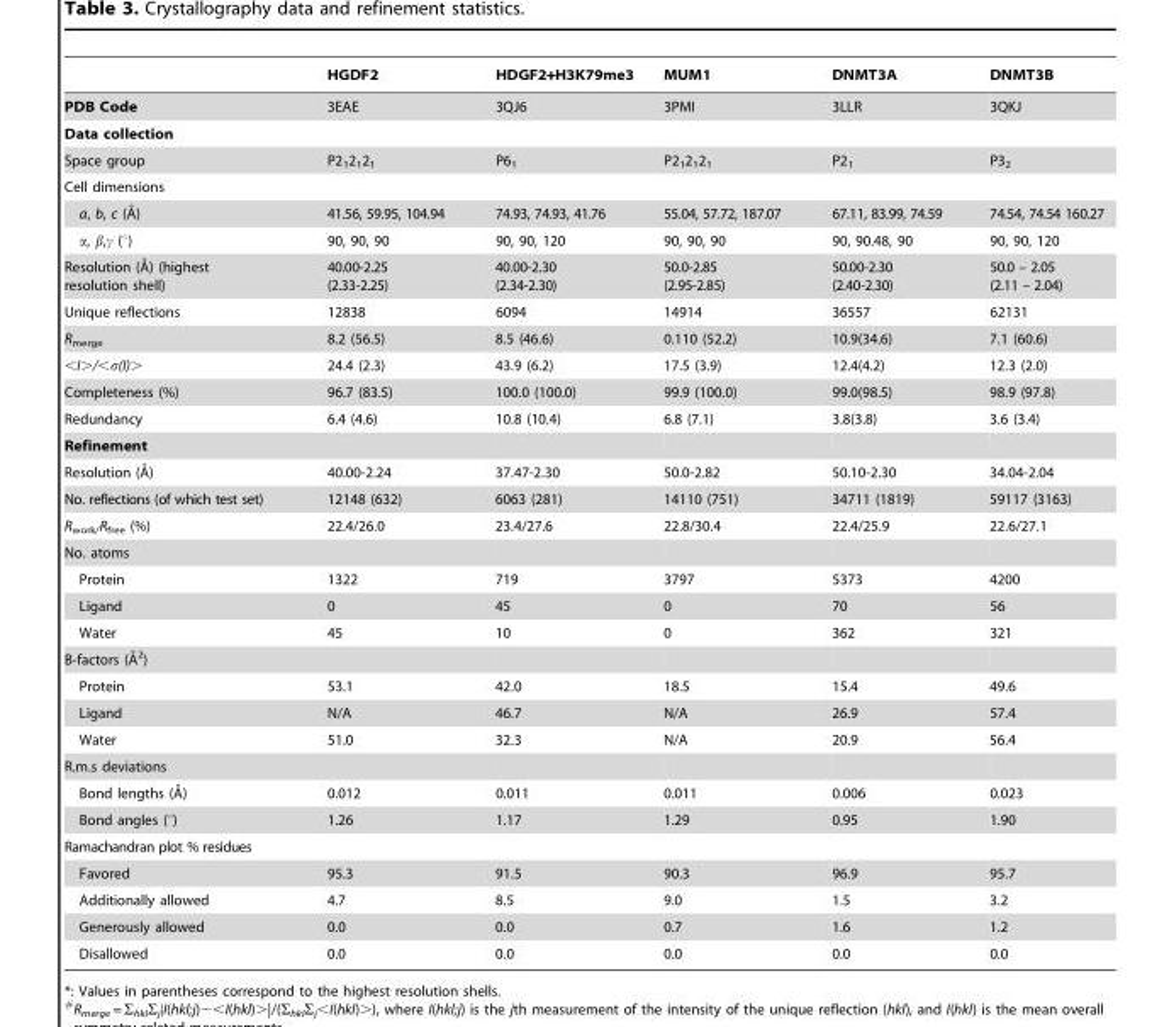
<table><thead><tr><td></td><td>HGDF2</td><td>HDGF2+H3K79me3</td><td>MUM1</td><td>DNMT3A</td><td>DNMT3B</td></tr></thead><tbody><tr><td>PDB Code</td><td>3EAE</td><td>3QJ6</td><td>3PMI</td><td>3LLR</td><td>3QKJ</td></tr><tr><td colspan="6">Data collection</td></tr><tr><td>Space group</td><td>P2<sub>1</sub>2<sub>1</sub>2<sub>1</sub></td><td>P6<sub>1</sub></td><td>P2<sub>1</sub>2<sub>1</sub>2<sub>1</sub></td><td>P2<sub>1</sub></td><td>P3<sub>2</sub></td></tr><tr><td colspan="6">Cell dimensions</td></tr><tr><td>a, b, c (A˚)</td><td>41.56, 59.95, 104.94</td><td>74.93, 74.93, 41.76</td><td>55.04, 57.72, 187.07</td><td>67.11, 83.99, 74.59</td><td>74.54, 74.54 160.27</td></tr><tr><td>α, β,γ (°)</td><td>90, 90, 90</td><td>90, 90, 120</td><td>90, 90, 90</td><td>90, 90.48, 90</td><td>90, 90, 120</td></tr><tr><td>Resolution (A˚) (highest resolution shell)</td><td>40.00-2.25 (2.33-2.25)</td><td>40.00-2.30 (2.34-2.30)</td><td>50.0-2.85 (2.95-2.85)</td><td>50.00-2.30 (2.40-2.30)</td><td>50.0 – 2.05 (2.11 – 2.04)</td></tr><tr><td>Unique reflections</td><td>12838</td><td>6094</td><td>14914</td><td>36557</td><td>62131</td></tr><tr><td>R<sub>merge</sub></td><td>8.2 (56.5)</td><td>8.5 (46.6)</td><td>0.110 (52.2)</td><td>10.9(34.6)</td><td>7.1 (60.6)</td></tr><tr><td>&lt;I&gt;/&lt;σ(I)&gt;</td><td>24.4 (2.3)</td><td>43.9 (6.2)</td><td>17.5 (3.9)</td><td>12.4(4.2)</td><td>12.3 (2.0)</td></tr><tr><td>Completeness (%)</td><td>96.7 (83.5)</td><td>100.0 (100.0)</td><td>99.9 (100.0)</td><td>99.0(98.5)</td><td>98.9 (97.8)</td></tr><tr><td>Redundancy</td><td>6.4 (4.6)</td><td>10.8 (10.4)</td><td>6.8 (7.1)</td><td>3.8(3.8)</td><td>3.6 (3.4)</td></tr><tr><td colspan="6">Refinement</td></tr><tr><td>Resolution (A˚)</td><td>40.00-2.24</td><td>37.47-2.30</td><td>50.0-2.82</td><td>50.10-2.30</td><td>34.04-2.04</td></tr><tr><td>No. reflections (of which test set)</td><td>12148 (632)</td><td>6063 (281)</td><td>14110 (751)</td><td>34711 (1819)</td><td>59117 (3163)</td></tr><tr><td>R<sub>work/</sub>R<sub>free</sub> (%)</td><td>22.4/26.0</td><td>23.4/27.6</td><td>22.8/30.4</td><td>22.4/25.9</td><td>22.6/27.1</td></tr><tr><td colspan="6">No. atoms</td></tr><tr><td>Protein</td><td>1322</td><td>719</td><td>3797</td><td>5373</td><td>4200</td></tr><tr><td>Ligand</td><td>0</td><td>45</td><td>0</td><td>70</td><td>56</td></tr><tr><td>Water</td><td>45</td><td>10</td><td>0</td><td>362</td><td>321</td></tr><tr><td colspan="6">B-factors (A˚ 2)</td></tr><tr><td>Protein</td><td>53.1</td><td>42.0</td><td>18.5</td><td>15.4</td><td>49.6</td></tr><tr><td>Ligand</td><td>N/A</td><td>46.7</td><td>N/A</td><td>26.9</td><td>57.4</td></tr><tr><td>Water</td><td>51.0</td><td>32.3</td><td>N/A</td><td>20.9</td><td>56.4</td></tr><tr><td colspan="6">R.m.s deviations</td></tr><tr><td>Bond lengths (A˚)</td><td>0.012</td><td>0.011</td><td>0.011</td><td>0.006</td><td>0.023</td></tr><tr><td>Bond angles (°)</td><td>1.26</td><td>1.17</td><td>1.29</td><td>0.95</td><td>1.90</td></tr><tr><td colspan="6">Ramachandran plot % residues</td></tr><tr><td>Favored</td><td>95.3</td><td>91.5</td><td>90.3</td><td>96.9</td><td>95.7</td></tr><tr><td>Additionally allowed</td><td>4.7</td><td>8.5</td><td>9.0</td><td>1.5</td><td>3.2</td></tr><tr><td>Generously allowed</td><td>0.0</td><td>0.0</td><td>0.7</td><td>1.6</td><td>1.2</td></tr><tr><td>Disallowed</td><td>0.0</td><td>0.0</td><td>0.0</td><td>0.0</td><td>0.0</td></tr></tbody></table>